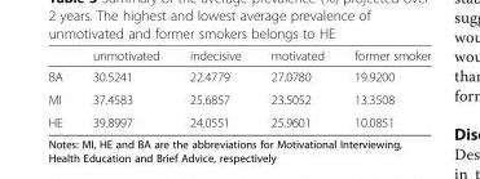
<table><thead><tr><td></td><td>unmotivated</td><td>indecisive</td><td>motivated</td><td>former smoker</td></tr></thead><tbody><tr><td>BA</td><td>30.5241</td><td>22.4779</td><td>27.0780</td><td>19.9200</td></tr><tr><td>MI</td><td>37.4583</td><td>25.6857</td><td>23.5052</td><td>13.3508</td></tr><tr><td>HE</td><td>39.8997</td><td>24.0551</td><td>25.9601</td><td>10.0851</td></tr></tbody></table>